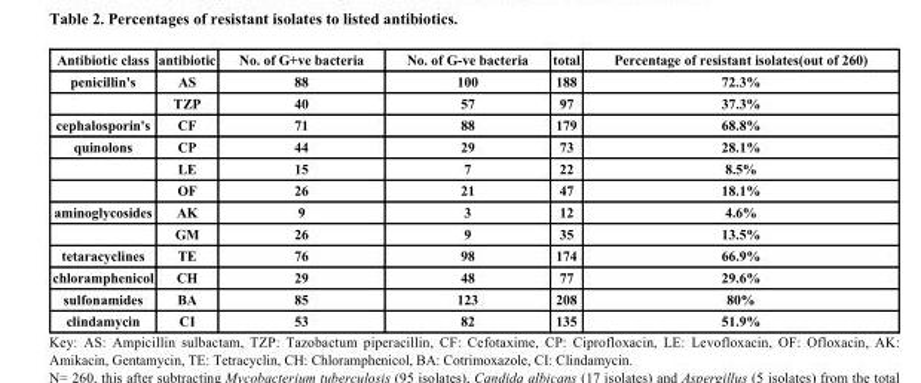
<table><thead><tr><td>Antibiotic class</td><td>antibiotic</td><td>No. of G+ve bacteria</td><td>No. of G-ve bacteria</td><td>total</td><td>Percentage of resistant isolates(out of 260)</td></tr></thead><tbody><tr><td rowspan="2">penicillin&#x27;s</td><td>AS</td><td>88</td><td>100</td><td>188</td><td>72.3%</td></tr><tr><td>TZP</td><td>40</td><td>57</td><td>97</td><td>37.3%</td></tr><tr><td>cephalosporin&#x27;s</td><td>CF</td><td>71</td><td>88</td><td>179</td><td>68.8%</td></tr><tr><td rowspan="3">quinolons</td><td>CP</td><td>44</td><td>29</td><td>73</td><td>28.1%</td></tr><tr><td>LE</td><td>15</td><td>7</td><td>22</td><td>8.5%</td></tr><tr><td>OF</td><td>26</td><td>21</td><td>47</td><td>18.1%</td></tr><tr><td rowspan="2">aminoglycosides</td><td>AK</td><td>9</td><td>3</td><td>12</td><td>4.6%</td></tr><tr><td>GM</td><td>26</td><td>9</td><td>35</td><td>13.5%</td></tr><tr><td>tetaracyclines</td><td>TE</td><td>76</td><td>98</td><td>174</td><td>66.9%</td></tr><tr><td>chloramphenicol</td><td>CH</td><td>29</td><td>48</td><td>77</td><td>29.6%</td></tr><tr><td>sulfonamides</td><td>BA</td><td>85</td><td>123</td><td>208</td><td>80%</td></tr><tr><td>clindamycin</td><td>CI</td><td>53</td><td>82</td><td>135</td><td>51.9%</td></tr></tbody></table>